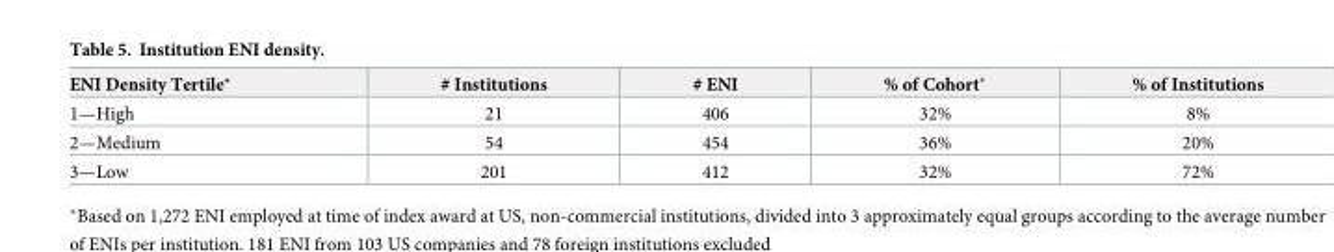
<table><thead><tr><td>ENI Density Tertile⁺</td><td># Institutions</td><td># ENI</td><td>% of Cohort*</td><td>% of Institutions</td></tr></thead><tbody><tr><td>1—High</td><td>21</td><td>406</td><td>32%</td><td>8%</td></tr><tr><td>2—Medium</td><td>54</td><td>454</td><td>36%</td><td>20%</td></tr><tr><td>3—Low</td><td>201</td><td>412</td><td>32%</td><td>72%</td></tr></tbody></table>